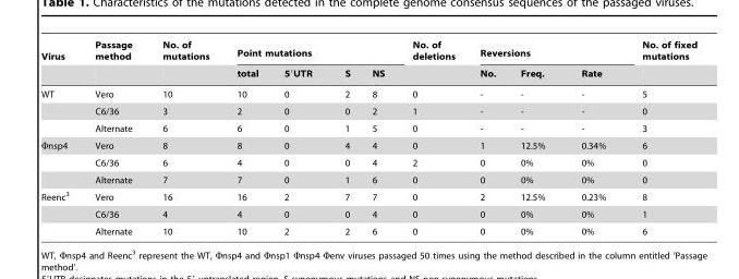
<table><thead><tr><td rowspan="2">Virus</td><td rowspan="2">Passage method</td><td rowspan="2">No. of mutations</td><td colspan="4">Point mutations</td><td rowspan="2">No. of deletions</td><td colspan="3">Reversions</td><td rowspan="2">No. of fixed mutations</td></tr><tr><td>total</td><td>5′UTR</td><td>S</td><td>NS</td><td>No.</td><td>Freq.</td><td>Rate</td></tr></thead><tbody><tr><td rowspan="3">WT</td><td>Vero</td><td>10</td><td>10</td><td>0</td><td>2</td><td>8</td><td>0</td><td>-</td><td>-</td><td>-</td><td>5</td></tr><tr><td>C6/36</td><td>3</td><td>2</td><td>0</td><td>0</td><td>2</td><td>1</td><td>-</td><td>-</td><td>-</td><td>0</td></tr><tr><td>Alternate</td><td>6</td><td>6</td><td>0</td><td>1</td><td>5</td><td>0</td><td>-</td><td>-</td><td>-</td><td>3</td></tr><tr><td rowspan="3">Φnsp4</td><td>Vero</td><td>8</td><td>8</td><td>0</td><td>4</td><td>4</td><td>0</td><td>1</td><td>12.5%</td><td>0.34%</td><td>6</td></tr><tr><td>C6/36</td><td>6</td><td>4</td><td>0</td><td>0</td><td>4</td><td>2</td><td>0</td><td>0%</td><td>0%</td><td>0</td></tr><tr><td>Alternate</td><td>7</td><td>7</td><td>0</td><td>1</td><td>6</td><td>0</td><td>0</td><td>0%</td><td>0%</td><td>0</td></tr><tr><td rowspan="3">Reenc<sup>3</sup></td><td>Vero</td><td>16</td><td>16</td><td>2</td><td>7</td><td>7</td><td>0</td><td>2</td><td>12.5%</td><td>0.23%</td><td>8</td></tr><tr><td>C6/36</td><td>4</td><td>4</td><td>0</td><td>0</td><td>4</td><td>0</td><td>0</td><td>0%</td><td>0%</td><td>1</td></tr><tr><td>Alternate</td><td>10</td><td>10</td><td>2</td><td>2</td><td>6</td><td>0</td><td>0</td><td>0%</td><td>0%</td><td>6</td></tr></tbody></table>